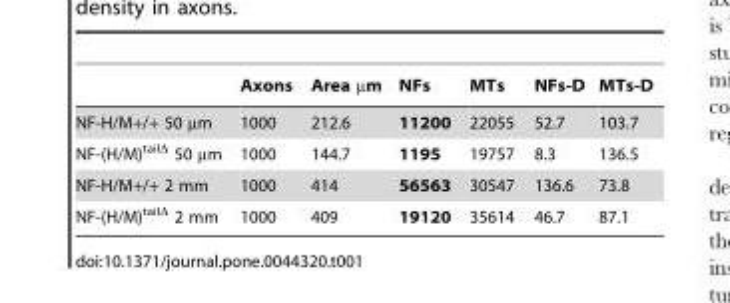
<table><thead><tr><td></td><td>Axons</td><td>Area µm</td><td>NFs</td><td>MTs</td><td>NFs-D</td><td>MTs-D</td></tr></thead><tbody><tr><td>NF-H/M+/+ 50 µm</td><td>1000</td><td>212.6</td><td>11200</td><td>22055</td><td>52.7</td><td>103.7</td></tr><tr><td>NF-(H/M)<sup>tailΔ</sup> 50 µm</td><td>1000</td><td>144.7</td><td>1195</td><td>19757</td><td>8.3</td><td>136.5</td></tr><tr><td>NF-H/M+/+ 2 mm</td><td>1000</td><td>414</td><td>56563</td><td>30547</td><td>136.6</td><td>73.8</td></tr><tr><td>NF-(H/M)<sup>tailΔ</sup> 2 mm</td><td>1000</td><td>409</td><td>19120</td><td>35614</td><td>46.7</td><td>87.1</td></tr></tbody></table>